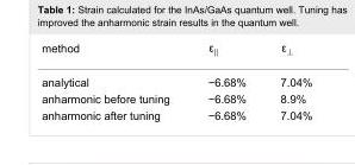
<table><tbody><tr><td colspan="3">method</td></tr><tr><td>analytical</td><td>−6.68%</td><td>7.04%</td></tr><tr><td>anharmonic before tuning</td><td>−6.68%</td><td>8.9%</td></tr><tr><td>anharmonic after tuning</td><td>−6.68%</td><td>7.04%</td></tr></tbody></table>